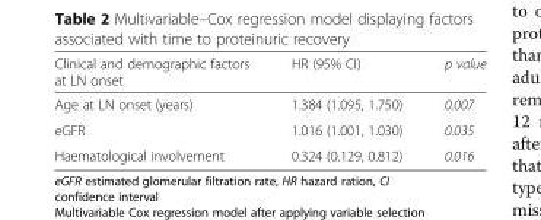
<table><thead><tr><td>Clinical and demographic factors at LN onset</td><td>HR (95% CI)</td><td>p value</td></tr></thead><tbody><tr><td>Age at LN onset (years)</td><td>1.384 (1.095, 1.750)</td><td>0.007</td></tr><tr><td>eGFR</td><td>1.016 (1.001, 1.030)</td><td>0.035</td></tr><tr><td>Haematological involvement</td><td>0.324 (0.129, 0.812)</td><td>0.016</td></tr></tbody></table>